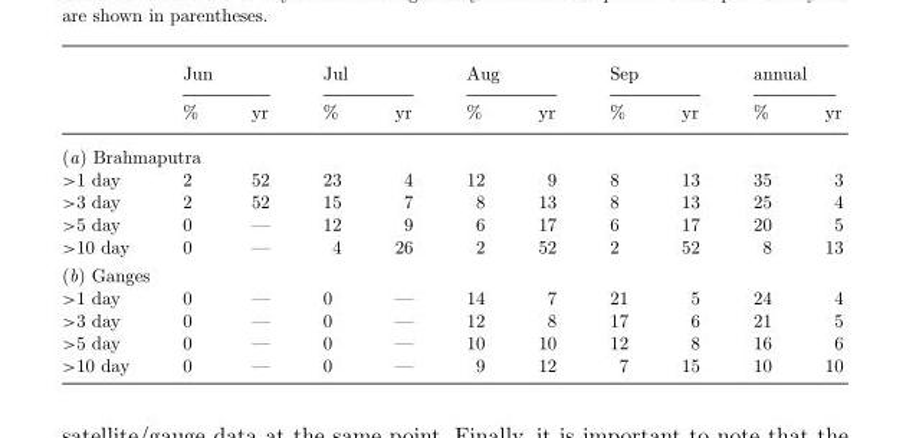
<table><thead><tr><td rowspan="2"></td><td colspan="2">Jun</td><td colspan="2">Jul</td><td colspan="2">Aug</td><td colspan="2">Sep</td><td colspan="2">annual</td></tr><tr><td>%</td><td>yr</td><td>%</td><td>yr</td><td>%</td><td>yr</td><td>%</td><td>yr</td><td>%</td><td>yr</td></tr></thead><tbody><tr><td colspan="11">(a) Brahmaputra</td></tr><tr><td>&gt;1 day</td><td>2</td><td>52</td><td>23</td><td>4</td><td>12</td><td>9</td><td>8</td><td>13</td><td>35</td><td>3</td></tr><tr><td>&gt;3 day</td><td>2</td><td>52</td><td>15</td><td>7</td><td>8</td><td>13</td><td>8</td><td>13</td><td>25</td><td>4</td></tr><tr><td>&gt;5 day</td><td>0</td><td>—</td><td>12</td><td>9</td><td>6</td><td>17</td><td>6</td><td>17</td><td>20</td><td>5</td></tr><tr><td>&gt;10 day</td><td>0</td><td>—</td><td>4</td><td>26</td><td>2</td><td>52</td><td>2</td><td>52</td><td>8</td><td>13</td></tr><tr><td colspan="11">(b) Ganges</td></tr><tr><td>&gt;1 day</td><td>0</td><td>—</td><td>0</td><td>—</td><td>14</td><td>7</td><td>21</td><td>5</td><td>24</td><td>4</td></tr><tr><td>&gt;3 day</td><td>0</td><td>—</td><td>0</td><td>—</td><td>12</td><td>8</td><td>17</td><td>6</td><td>21</td><td>5</td></tr><tr><td>&gt;5 day</td><td>0</td><td>—</td><td>0</td><td>—</td><td>10</td><td>10</td><td>12</td><td>8</td><td>16</td><td>6</td></tr><tr><td>&gt;10 day</td><td>0</td><td>—</td><td>0</td><td>—</td><td>9</td><td>12</td><td>7</td><td>15</td><td>10</td><td>10</td></tr></tbody></table>